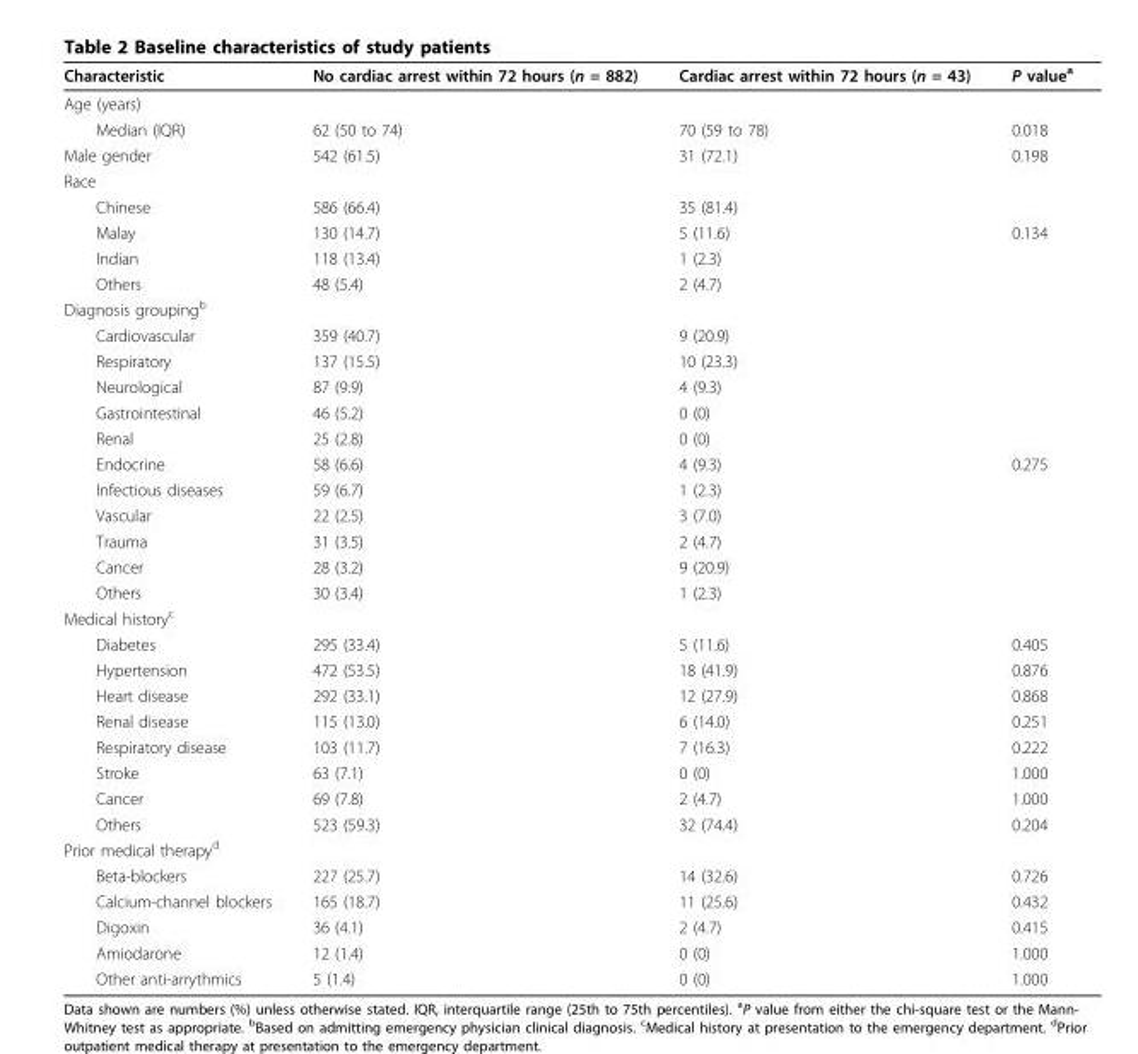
<table><thead><tr><td>Characteristic</td><td>No cardiac arrest within 72 hours (n = 882)</td><td>Cardiac arrest within 72 hours (n = 43)</td><td>P value<sup>a</sup></td></tr></thead><tbody><tr><td colspan="4">Age (years)</td></tr><tr><td>Median (IQR)</td><td>62 (50 to 74)</td><td>70 (59 to 78)</td><td>0.018</td></tr><tr><td>Male gender</td><td>542 (61.5)</td><td>31 (72.1)</td><td>0.198</td></tr><tr><td colspan="4">Race</td></tr><tr><td>Chinese</td><td>586 (66.4)</td><td>35 (81.4)</td><td></td></tr><tr><td>Malay</td><td>130 (14.7)</td><td>5 (11.6)</td><td>0.134</td></tr><tr><td>Indian</td><td>118 (13.4)</td><td>1 (2.3)</td><td></td></tr><tr><td>Others</td><td>48 (5.4)</td><td>2 (4.7)</td><td></td></tr><tr><td colspan="4">Diagnosis grouping<sup>b</sup></td></tr><tr><td>Cardiovascular</td><td>359 (40.7)</td><td>9 (20.9)</td><td></td></tr><tr><td>Respiratory</td><td>137 (15.5)</td><td>10 (23.3)</td><td></td></tr><tr><td>Neurological</td><td>87 (9.9)</td><td>4 (9.3)</td><td></td></tr><tr><td>Gastrointestinal</td><td>46 (5.2)</td><td>0 (0)</td><td></td></tr><tr><td>Renal</td><td>25 (2.8)</td><td>0 (0)</td><td></td></tr><tr><td>Endocrine</td><td>58 (6.6)</td><td>4 (9.3)</td><td>0.275</td></tr><tr><td>Infectious diseases</td><td>59 (6.7)</td><td>1 (2.3)</td><td></td></tr><tr><td>Vascular</td><td>22 (2.5)</td><td>3 (7.0)</td><td></td></tr><tr><td>Trauma</td><td>31 (3.5)</td><td>2 (4.7)</td><td></td></tr><tr><td>Cancer</td><td>28 (3.2)</td><td>9 (20.9)</td><td></td></tr><tr><td>Others</td><td>30 (3.4)</td><td>1 (2.3)</td><td></td></tr><tr><td colspan="4">Medical history<sup>c</sup></td></tr><tr><td>Diabetes</td><td>295 (33.4)</td><td>5 (11.6)</td><td>0.405</td></tr><tr><td>Hypertension</td><td>472 (53.5)</td><td>18 (41.9)</td><td>0.876</td></tr><tr><td>Heart disease</td><td>292 (33.1)</td><td>12 (27.9)</td><td>0.868</td></tr><tr><td>Renal disease</td><td>115 (13.0)</td><td>6 (14.0)</td><td>0.251</td></tr><tr><td>Respiratory disease</td><td>103 (11.7)</td><td>7 (16.3)</td><td>0.222</td></tr><tr><td>Stroke</td><td>63 (7.1)</td><td>0 (0)</td><td>1.000</td></tr><tr><td>Cancer</td><td>69 (7.8)</td><td>2 (4.7)</td><td>1.000</td></tr><tr><td>Others</td><td>523 (59.3)</td><td>32 (74.4)</td><td>0.204</td></tr><tr><td colspan="4">Prior medical therapy<sup>d</sup></td></tr><tr><td>Beta-blockers</td><td>227 (25.7)</td><td>14 (32.6)</td><td>0.726</td></tr><tr><td>Calcium-channel blockers</td><td>165 (18.7)</td><td>11 (25.6)</td><td>0.432</td></tr><tr><td>Digoxin</td><td>36 (4.1)</td><td>2 (4.7)</td><td>0.415</td></tr><tr><td>Amiodarone</td><td>12 (1.4)</td><td>0 (0)</td><td>1.000</td></tr><tr><td>Other anti-arrythmics</td><td>5 (1.4)</td><td>0 (0)</td><td>1.000</td></tr></tbody></table>